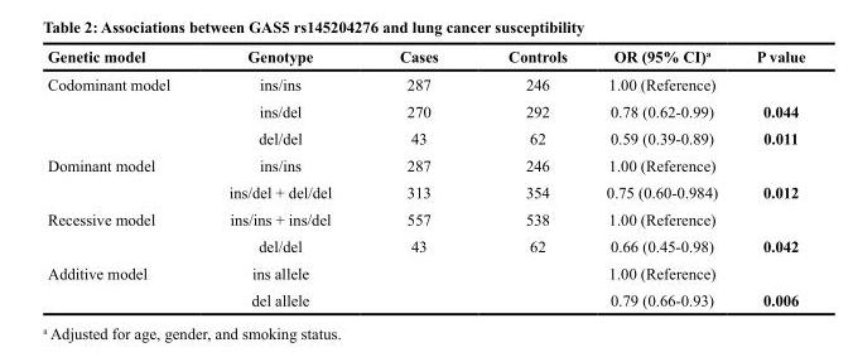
<table><thead><tr><td>Genetic model</td><td>Genotype</td><td>Cases</td><td>Controls</td><td>OR (95% CI)<sup>a</sup></td><td>P value</td></tr></thead><tbody><tr><td rowspan="3">Codominant model</td><td>ins/ins</td><td>287</td><td>246</td><td>1.00 (Reference)</td><td></td></tr><tr><td>ins/del</td><td>270</td><td>292</td><td>0.78 (0.62-0.99)</td><td>0.044</td></tr><tr><td>del/del</td><td>43</td><td>62</td><td>0.59 (0.39-0.89)</td><td>0.011</td></tr><tr><td rowspan="2">Dominant model</td><td>ins/ins</td><td>287</td><td>246</td><td>1.00 (Reference)</td><td></td></tr><tr><td>ins/del + del/del</td><td>313</td><td>354</td><td>0.75 (0.60-0.984)</td><td>0.012</td></tr><tr><td rowspan="2">Recessive model</td><td>ins/ins + ins/del</td><td>557</td><td>538</td><td>1.00 (Reference)</td><td></td></tr><tr><td>del/del</td><td>43</td><td>62</td><td>0.66 (0.45-0.98)</td><td>0.042</td></tr><tr><td rowspan="2">Additive model</td><td>ins allele</td><td></td><td></td><td>1.00 (Reference)</td><td></td></tr><tr><td>del allele</td><td></td><td></td><td>0.79 (0.66-0.93)</td><td>0.006</td></tr></tbody></table>